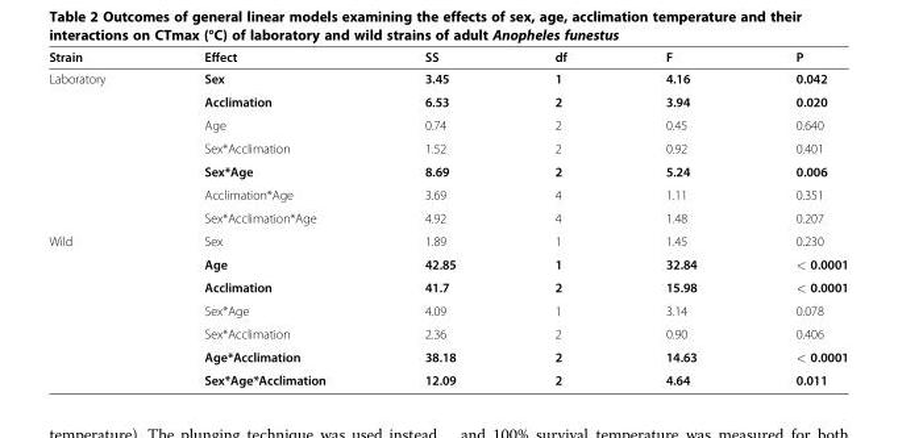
<table><thead><tr><td>Strain</td><td>Effect</td><td>SS</td><td>df</td><td>F</td><td>P</td></tr></thead><tbody><tr><td rowspan="7">Laboratory</td><td>Sex</td><td>3.45</td><td>1</td><td>4.16</td><td>0.042</td></tr><tr><td>Acclimation</td><td>6.53</td><td>2</td><td>3.94</td><td>0.020</td></tr><tr><td>Age</td><td>0.74</td><td>2</td><td>0.45</td><td>0.640</td></tr><tr><td>Sex*Acclimation</td><td>1.52</td><td>2</td><td>0.92</td><td>0.401</td></tr><tr><td>Sex*Age</td><td>8.69</td><td>2</td><td>5.24</td><td>0.006</td></tr><tr><td>Acclimation*Age</td><td>3.69</td><td>4</td><td>1.11</td><td>0.351</td></tr><tr><td>Sex*Acclimation*Age</td><td>4.92</td><td>4</td><td>1.48</td><td>0.207</td></tr><tr><td rowspan="7">Wild</td><td>Sex</td><td>1.89</td><td>1</td><td>1.45</td><td>0.230</td></tr><tr><td>Age</td><td>42.85</td><td>1</td><td>32.84</td><td>&lt; 0.0001</td></tr><tr><td>Acclimation</td><td>41.7</td><td>2</td><td>15.98</td><td>&lt; 0.0001</td></tr><tr><td>Sex*Age</td><td>4.09</td><td>1</td><td>3.14</td><td>0.078</td></tr><tr><td>Sex*Acclimation</td><td>2.36</td><td>2</td><td>0.90</td><td>0.406</td></tr><tr><td>Age*Acclimation</td><td>38.18</td><td>2</td><td>14.63</td><td>&lt; 0.0001</td></tr><tr><td>Sex*Age*Acclimation</td><td>12.09</td><td>2</td><td>4.64</td><td>0.011</td></tr></tbody></table>